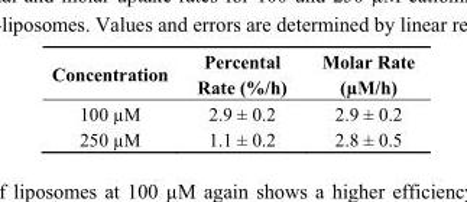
<table><thead><tr><td>Concentration</td><td>Percental Rate (%/h)</td><td>Molar Rate (µM/h)</td></tr></thead><tbody><tr><td>100 µM</td><td>2.9 ± 0.2</td><td>2.9 ± 0.2</td></tr><tr><td>250 µM</td><td>1.1 ± 0.2</td><td>2.8 ± 0.5</td></tr></tbody></table>